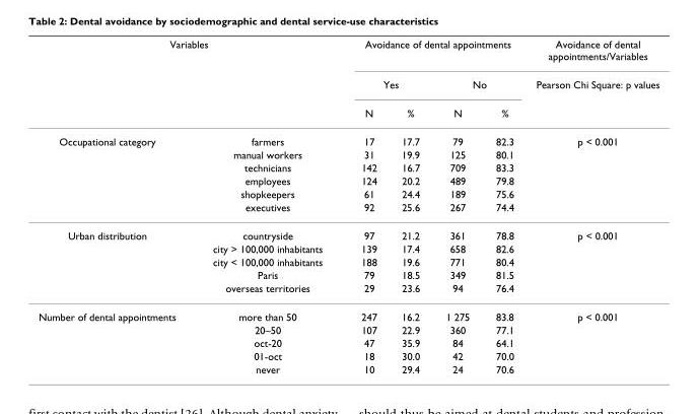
<table><thead><tr><td colspan="2">Variables</td><td colspan="4">Avoidance of dental appointments</td><td rowspan="3">Avoidance of dental appointments/Variables Pearson Chi Square: p values</td></tr><tr><td rowspan="2"></td><td rowspan="2"></td><td colspan="2">Yes</td><td colspan="2">No</td></tr><tr><td>N</td><td>%</td><td>N</td><td>%</td></tr></thead><tbody><tr><td rowspan="6">Occupational category</td><td>farmers</td><td>17</td><td>17.7</td><td>79</td><td>82.3</td><td>p &lt; 0.001</td></tr><tr><td>manual workers</td><td>31</td><td>19.9</td><td>125</td><td>80.1</td><td></td></tr><tr><td>technicians</td><td>142</td><td>16.7</td><td>709</td><td>83.3</td><td></td></tr><tr><td>employees</td><td>124</td><td>20.2</td><td>489</td><td>79.8</td><td></td></tr><tr><td>shopkeepers</td><td>61</td><td>24.4</td><td>189</td><td>75.6</td><td></td></tr><tr><td>executives</td><td>92</td><td>25.6</td><td>267</td><td>74.4</td><td></td></tr><tr><td rowspan="5">Urban distribution</td><td>countryside</td><td>97</td><td>21.2</td><td>361</td><td>78.8</td><td>p &lt; 0.001</td></tr><tr><td>city &gt; 100,000 inhabitants</td><td>139</td><td>17.4</td><td>658</td><td>82.6</td><td></td></tr><tr><td>city &lt; 100,000 inhabitants</td><td>188</td><td>19.6</td><td>771</td><td>80.4</td><td></td></tr><tr><td>Paris</td><td>79</td><td>18.5</td><td>349</td><td>81.5</td><td></td></tr><tr><td>overseas territories</td><td>29</td><td>23.6</td><td>94</td><td>76.4</td><td></td></tr><tr><td rowspan="5">Number of dental appointments</td><td>more than 50</td><td>247</td><td>16.2</td><td>1 275</td><td>83.8</td><td>p &lt; 0.001</td></tr><tr><td>20–50</td><td>107</td><td>22.9</td><td>360</td><td>77.1</td><td></td></tr><tr><td>oct-20</td><td>47</td><td>35.9</td><td>84</td><td>64.1</td><td></td></tr><tr><td>01-oct</td><td>18</td><td>30.0</td><td>42</td><td>70.0</td><td></td></tr><tr><td>never</td><td>10</td><td>29.4</td><td>24</td><td>70.6</td><td></td></tr></tbody></table>